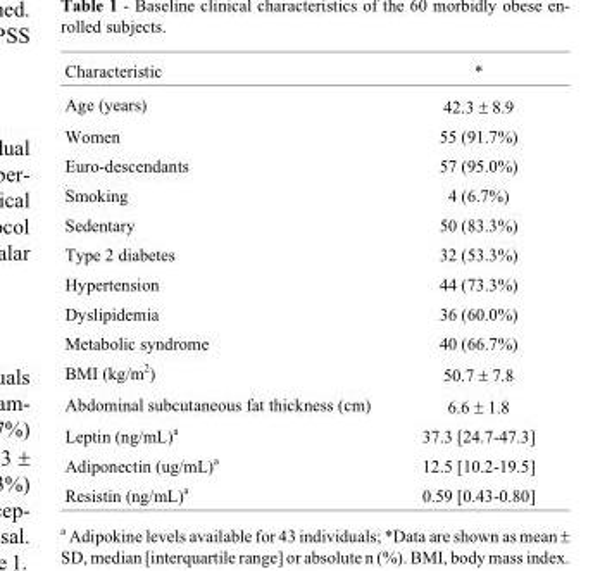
<table><thead><tr><td>Characteristic</td><td>*</td></tr></thead><tbody><tr><td>Age (years)</td><td>42.3 ± 8.9</td></tr><tr><td>Women</td><td>55 (91.7%)</td></tr><tr><td>Euro-descendants</td><td>57 (95.0%)</td></tr><tr><td>Smoking</td><td>4 (6.7%)</td></tr><tr><td>Sedentary</td><td>50 (83.3%)</td></tr><tr><td>Type 2 diabetes</td><td>32 (53.3%)</td></tr><tr><td>Hypertension</td><td>44 (73.3%)</td></tr><tr><td>Dyslipidemia</td><td>36 (60.0%)</td></tr><tr><td>Metabolic syndrome</td><td>40 (66.7%)</td></tr><tr><td>BMI (kg/m<sup>2</sup>)</td><td>50.7 ± 7.8</td></tr><tr><td>Abdominal subcutaneous fat thickness (cm)</td><td>6.6 ± 1.8</td></tr><tr><td>Leptin (ng/mL)<sup>a</sup></td><td>37.3 [24.7-47.3]</td></tr><tr><td>Adiponectin (ug/mL)<sup>a</sup></td><td>12.5 [10.2-19.5]</td></tr><tr><td>Resistin (ng/mL)<sup>a</sup></td><td>0.59 [0.43-0.80]</td></tr></tbody></table>